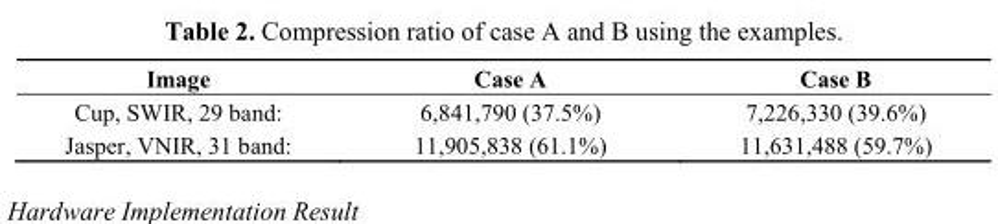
<table><thead><tr><td>Image</td><td>Case A</td><td>Case B</td></tr></thead><tbody><tr><td>Cup, SWIR, 29 band:</td><td>6,841,790 (37.5%)</td><td>7,226,330 (39.6%)</td></tr><tr><td>Jasper, VNIR, 31 band:</td><td>11,905,838 (61.1%)</td><td>11,631,488 (59.7%)</td></tr></tbody></table>